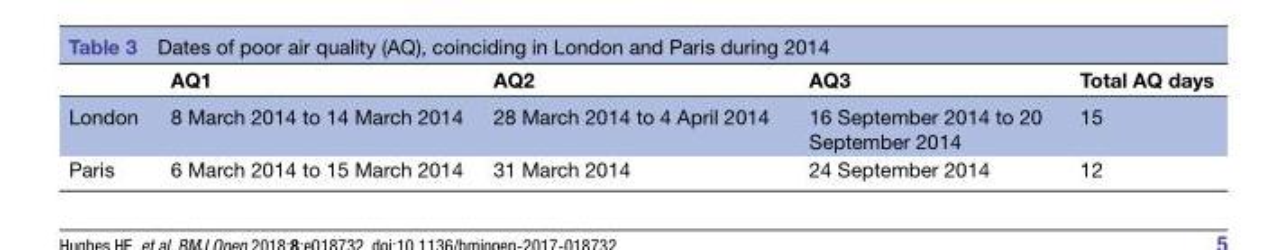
<table><thead><tr><td></td><td>AQ1</td><td>AQ2</td><td>AQ3</td><td>Total AQ days</td></tr></thead><tbody><tr><td>London</td><td>8 March 2014 to 14 March 2014</td><td>28 March 2014 to 4 April 2014</td><td>16 September 2014 to 20 September 2014</td><td>15</td></tr><tr><td>Paris</td><td>6 March 2014 to 15 March 2014</td><td>31 March 2014</td><td>24 September 2014</td><td>12</td></tr></tbody></table>